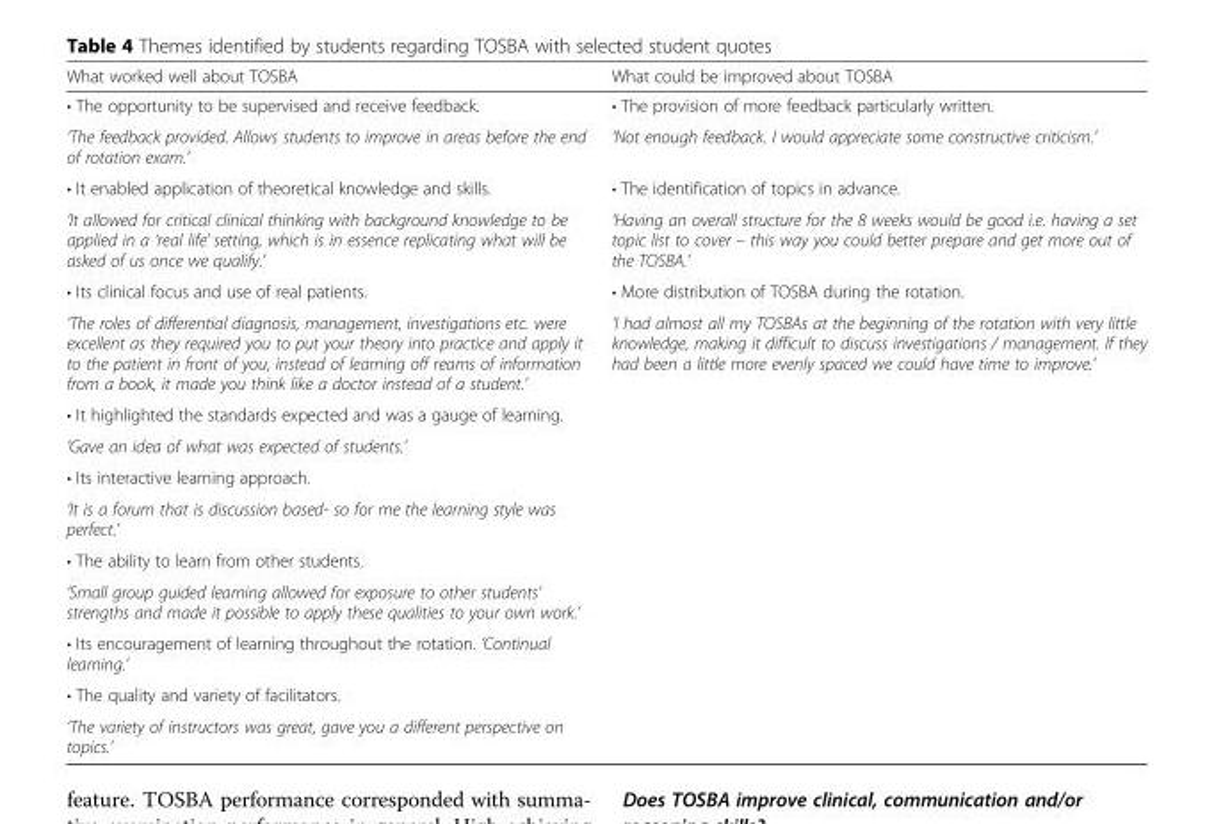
<table><thead><tr><td>What worked well about TOSBA</td><td>What could be improved about TOSBA</td></tr></thead><tbody><tr><td>• The opportunity to be supervised and receive feedback.</td><td>• The provision of more feedback particularly written.</td></tr><tr><td>‘The feedback provided. Allows students to improve in areas before the end of rotation exam.’</td><td>‘Not enough feedback. I would appreciate some constructive criticism.’</td></tr><tr><td>• It enabled application of theoretical knowledge and skills.</td><td>• The identification of topics in advance.</td></tr><tr><td>‘It allowed for critical clinical thinking with background knowledge to be applied in a ‘real life’ setting, which is in essence replicating what will be asked of us once we qualify.’</td><td>‘Having an overall structure for the 8 weeks would be good i.e. having a set topic list to cover – this way you could better prepare and get more out of the TOSBA.’</td></tr><tr><td>• Its clinical focus and use of real patients.</td><td>• More distribution of TOSBA during the rotation.</td></tr><tr><td>‘The roles of differential diagnosis, management, investigations etc. were excellent as they required you to put your theory into practice and apply it to the patient in front of you, instead of learning off reams of information from a book, it made you think like a doctor instead of a student.’</td><td rowspan="10">‘I had almost all my TOSBAs at the beginning of the rotation with very little knowledge, making it difficult to discuss investigations / management. If they had been a little more evenly spaced we could have time to improve.’</td></tr><tr><td>• It highlighted the standards expected and was a gauge of learning.</td></tr><tr><td>‘Gave an idea of what was expected of students.’</td></tr><tr><td>• Its interactive learning approach.</td></tr><tr><td>‘It is a forum that is discussion based- so for me the learning style was perfect.’</td></tr><tr><td>• The ability to learn from other students.</td></tr><tr><td>‘Small group guided learning allowed for exposure to other students’ strengths and made it possible to apply these qualities to your own work.’</td></tr><tr><td>• Its encouragement of learning throughout the rotation. ‘Continual learning.’</td></tr><tr><td>• The quality and variety of facilitators.</td></tr><tr><td>‘The variety of instructors was great, gave you a different perspective on topics.’</td></tr></tbody></table>